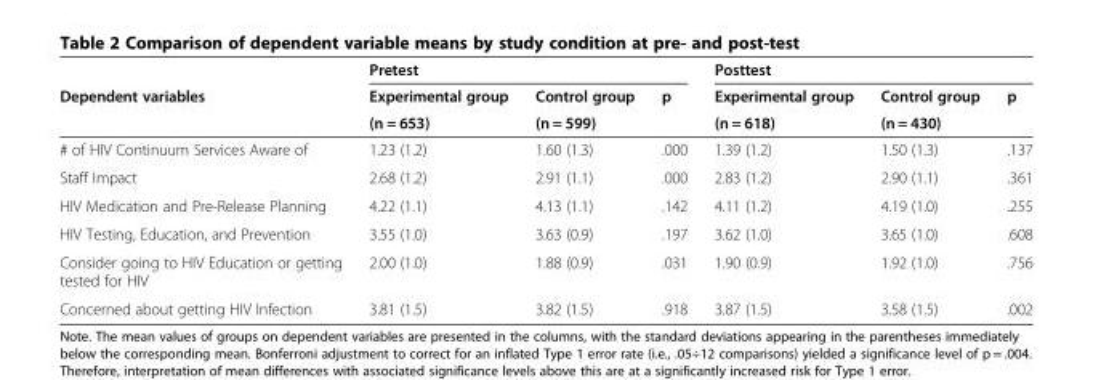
<table><thead><tr><td rowspan="3">Dependent variables</td><td colspan="3">Pretest</td><td colspan="3">Posttest</td></tr><tr><td rowspan="2">Experimental group (n = 653)</td><td rowspan="2">Control group (n = 599)</td><td rowspan="2">p</td><td rowspan="2">Experimental group (n = 618)</td><td rowspan="2">Control group (n = 430)</td><td rowspan="2">p</td></tr><tr></tr></thead><tbody><tr><td># of HIV Continuum Services Aware of</td><td>1.23 (1.2)</td><td>1.60 (1.3)</td><td>.000</td><td>1.39 (1.2)</td><td>1.50 (1.3)</td><td>.137</td></tr><tr><td>Staff Impact</td><td>2.68 (1.2)</td><td>2.91 (1.1)</td><td>.000</td><td>2.83 (1.2)</td><td>2.90 (1.1)</td><td>.361</td></tr><tr><td>HIV Medication and Pre-Release Planning</td><td>4.22 (1.1)</td><td>4.13 (1.1)</td><td>.142</td><td>4.11 (1.2)</td><td>4.19 (1.0)</td><td>.255</td></tr><tr><td>HIV Testing, Education, and Prevention</td><td>3.55 (1.0)</td><td>3.63 (0.9)</td><td>.197</td><td>3.62 (1.0)</td><td>3.65 (1.0)</td><td>.608</td></tr><tr><td>Consider going to HIV Education or getting tested for HIV</td><td>2.00 (1.0)</td><td>1.88 (0.9)</td><td>.031</td><td>1.90 (0.9)</td><td>1.92 (1.0)</td><td>.756</td></tr><tr><td>Concerned about getting HIV Infection</td><td>3.81 (1.5)</td><td>3.82 (1.5)</td><td>.918</td><td>3.87 (1.5)</td><td>3.58 (1.5)</td><td>.002</td></tr></tbody></table>